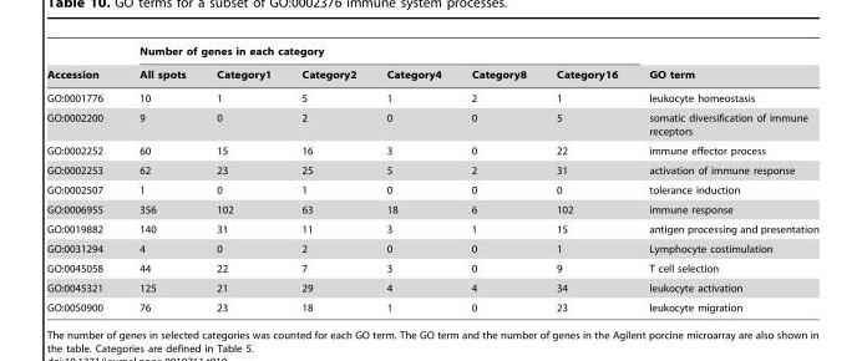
<table><thead><tr><td rowspan="2">Accession</td><td colspan="6">Number of genes in each category</td><td rowspan="2">GO term</td></tr><tr><td>All spots</td><td>Category1</td><td>Category2</td><td>Category4</td><td>Category8</td><td>Category16</td></tr></thead><tbody><tr><td>GO:0001776</td><td>10</td><td>1</td><td>5</td><td>1</td><td>2</td><td>1</td><td>leukocyte homeostasis</td></tr><tr><td>GO:0002200</td><td>9</td><td>0</td><td>2</td><td>0</td><td>0</td><td>5</td><td>somatic diversification of immune receptors</td></tr><tr><td>GO:0002252</td><td>60</td><td>15</td><td>16</td><td>3</td><td>0</td><td>22</td><td>immune effector process</td></tr><tr><td>GO:0002253</td><td>62</td><td>23</td><td>25</td><td>5</td><td>2</td><td>31</td><td>activation of immune response</td></tr><tr><td>GO:0002507</td><td>1</td><td>0</td><td>1</td><td>0</td><td>0</td><td>0</td><td>tolerance induction</td></tr><tr><td>GO:0006955</td><td>356</td><td>102</td><td>63</td><td>18</td><td>6</td><td>102</td><td>immune response</td></tr><tr><td>GO:0019882</td><td>140</td><td>31</td><td>11</td><td>3</td><td>1</td><td>15</td><td>antigen processing and presentation</td></tr><tr><td>GO:0031294</td><td>4</td><td>0</td><td>2</td><td>0</td><td>0</td><td>1</td><td>Lymphocyte costimulation</td></tr><tr><td>GO:0045058</td><td>44</td><td>22</td><td>7</td><td>3</td><td>0</td><td>9</td><td>T cell selection</td></tr><tr><td>GO:0045321</td><td>125</td><td>21</td><td>29</td><td>4</td><td>4</td><td>34</td><td>leukocyte activation</td></tr><tr><td>GO:0050900</td><td>76</td><td>23</td><td>18</td><td>1</td><td>0</td><td>23</td><td>leukocyte migration</td></tr></tbody></table>